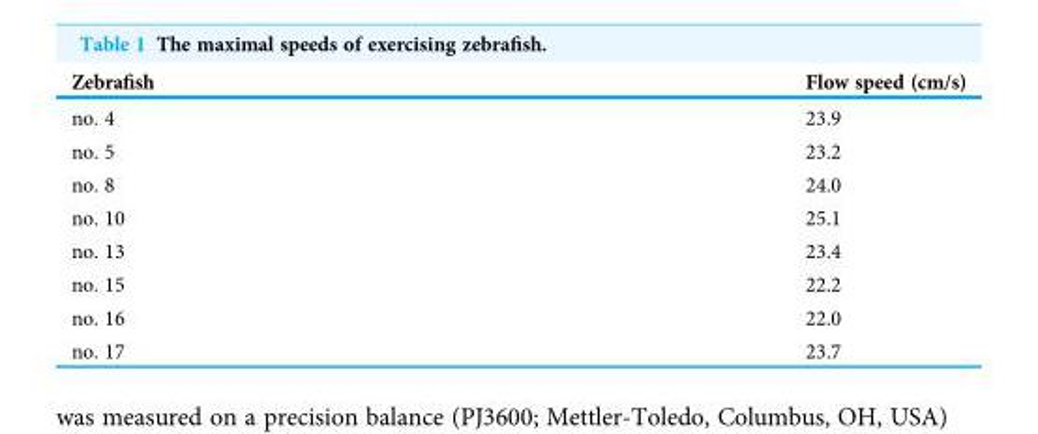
<table><thead><tr><td>Zebrafish</td><td>Flow speed (cm/s)</td></tr></thead><tbody><tr><td>no. 4</td><td>23.9</td></tr><tr><td>no. 5</td><td>23.2</td></tr><tr><td>no. 8</td><td>24.0</td></tr><tr><td>no. 10</td><td>25.1</td></tr><tr><td>no. 13</td><td>23.4</td></tr><tr><td>no. 15</td><td>22.2</td></tr><tr><td>no. 16</td><td>22.0</td></tr><tr><td>no. 17</td><td>23.7</td></tr></tbody></table>